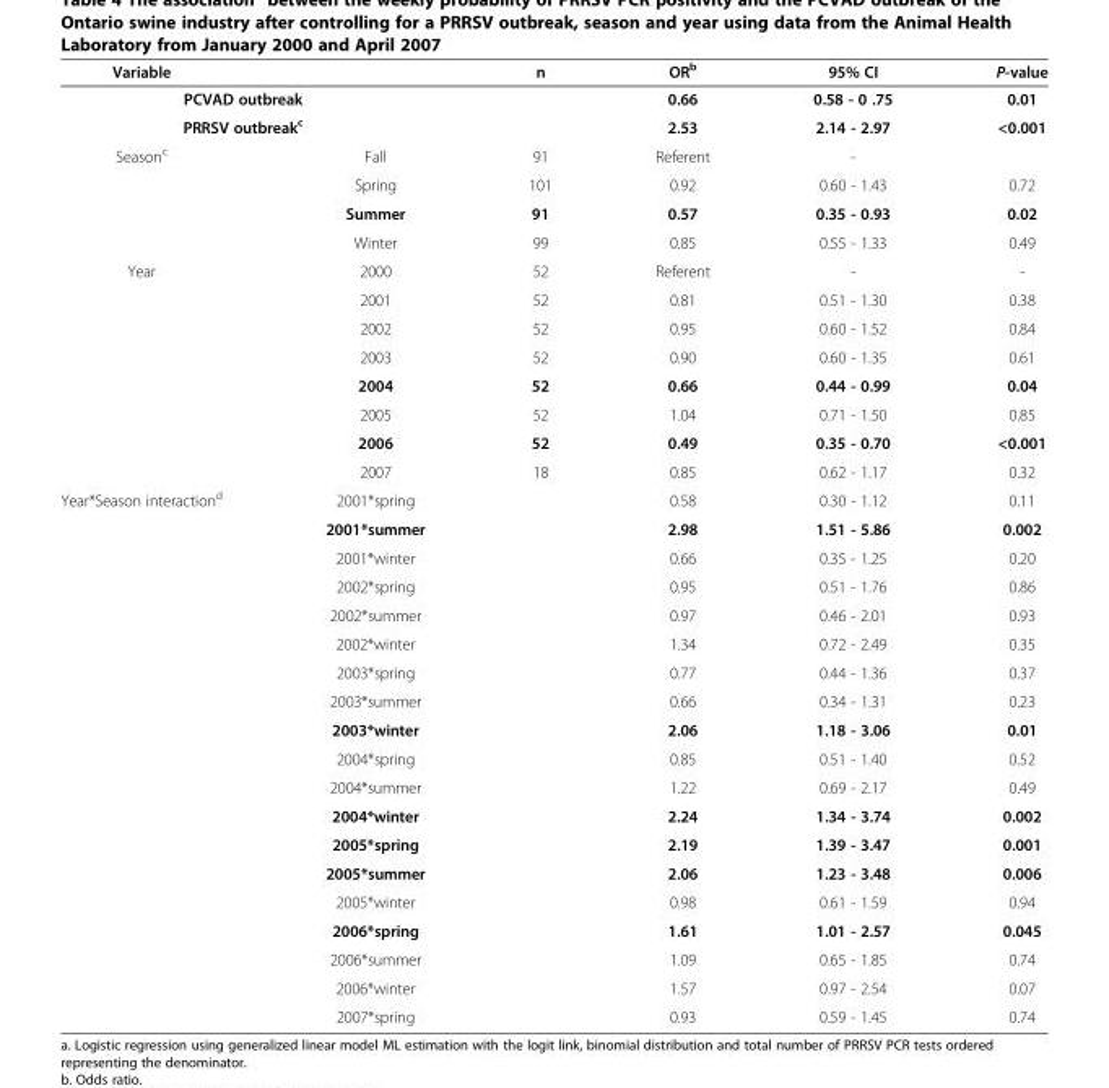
<table><thead><tr><td>Variable</td><td></td><td>n</td><td>OR<sup>b</sup></td><td>95% CI</td><td>P-value</td></tr></thead><tbody><tr><td colspan="2">PCVAD outbreak</td><td></td><td>0.66</td><td>0.58 - 0 .75</td><td>0.01</td></tr><tr><td colspan="2">PRRSV outbreak<sup>c</sup></td><td></td><td>2.53</td><td>2.14 - 2.97</td><td>&lt;0.001</td></tr><tr><td rowspan="4">Season<sup>c</sup></td><td>Fall</td><td>91</td><td>Referent</td><td>-</td><td></td></tr><tr><td>Spring</td><td>101</td><td>0.92</td><td>0.60 - 1.43</td><td>0.72</td></tr><tr><td>Summer</td><td>91</td><td>0.57</td><td>0.35 - 0.93</td><td>0.02</td></tr><tr><td>Winter</td><td>99</td><td>0.85</td><td>0.55 - 1.33</td><td>0.49</td></tr><tr><td rowspan="8">Year</td><td>2000</td><td>52</td><td>Referent</td><td>-</td><td>-</td></tr><tr><td>2001</td><td>52</td><td>0.81</td><td>0.51 - 1.30</td><td>0.38</td></tr><tr><td>2002</td><td>52</td><td>0.95</td><td>0.60 - 1.52</td><td>0.84</td></tr><tr><td>2003</td><td>52</td><td>0.90</td><td>0.60 - 1.35</td><td>0.61</td></tr><tr><td>2004</td><td>52</td><td>0.66</td><td>0.44 - 0.99</td><td>0.04</td></tr><tr><td>2005</td><td>52</td><td>1.04</td><td>0.71 - 1.50</td><td>0.85</td></tr><tr><td>2006</td><td>52</td><td>0.49</td><td>0.35 - 0.70</td><td>&lt;0.001</td></tr><tr><td>2007</td><td>18</td><td>0.85</td><td>0.62 - 1.17</td><td>0.32</td></tr><tr><td rowspan="19">Year*Season interaction<sup>d</sup></td><td>2001*spring</td><td></td><td>0.58</td><td>0.30 - 1.12</td><td>0.11</td></tr><tr><td>2001*summer</td><td></td><td>2.98</td><td>1.51 - 5.86</td><td>0.002</td></tr><tr><td>2001*winter</td><td></td><td>0.66</td><td>0.35 - 1.25</td><td>0.20</td></tr><tr><td>2002*spring</td><td></td><td>0.95</td><td>0.51 - 1.76</td><td>0.86</td></tr><tr><td>2002*summer</td><td></td><td>0.97</td><td>0.46 - 2.01</td><td>0.93</td></tr><tr><td>2002*winter</td><td></td><td>1.34</td><td>0.72 - 2.49</td><td>0.35</td></tr><tr><td>2003*spring</td><td></td><td>0.77</td><td>0.44 - 1.36</td><td>0.37</td></tr><tr><td>2003*summer</td><td></td><td>0.66</td><td>0.34 - 1.31</td><td>0.23</td></tr><tr><td>2003*winter</td><td></td><td>2.06</td><td>1.18 - 3.06</td><td>0.01</td></tr><tr><td>2004*spring</td><td></td><td>0.85</td><td>0.51 - 1.40</td><td>0.52</td></tr><tr><td>2004*summer</td><td></td><td>1.22</td><td>0.69 - 2.17</td><td>0.49</td></tr><tr><td>2004*winter</td><td></td><td>2.24</td><td>1.34 - 3.74</td><td>0.002</td></tr><tr><td>2005*spring</td><td></td><td>2.19</td><td>1.39 - 3.47</td><td>0.001</td></tr><tr><td>2005*summer</td><td></td><td>2.06</td><td>1.23 - 3.48</td><td>0.006</td></tr><tr><td>2005*winter</td><td></td><td>0.98</td><td>0.61 - 1.59</td><td>0.94</td></tr><tr><td>2006*spring</td><td></td><td>1.61</td><td>1.01 - 2.57</td><td>0.045</td></tr><tr><td>2006*summer</td><td></td><td>1.09</td><td>0.65 - 1.85</td><td>0.74</td></tr><tr><td>2006*winter</td><td></td><td>1.57</td><td>0.97 - 2.54</td><td>0.07</td></tr><tr><td>2007*spring</td><td></td><td>0.93</td><td>0.59 - 1.45</td><td>0.74</td></tr></tbody></table>